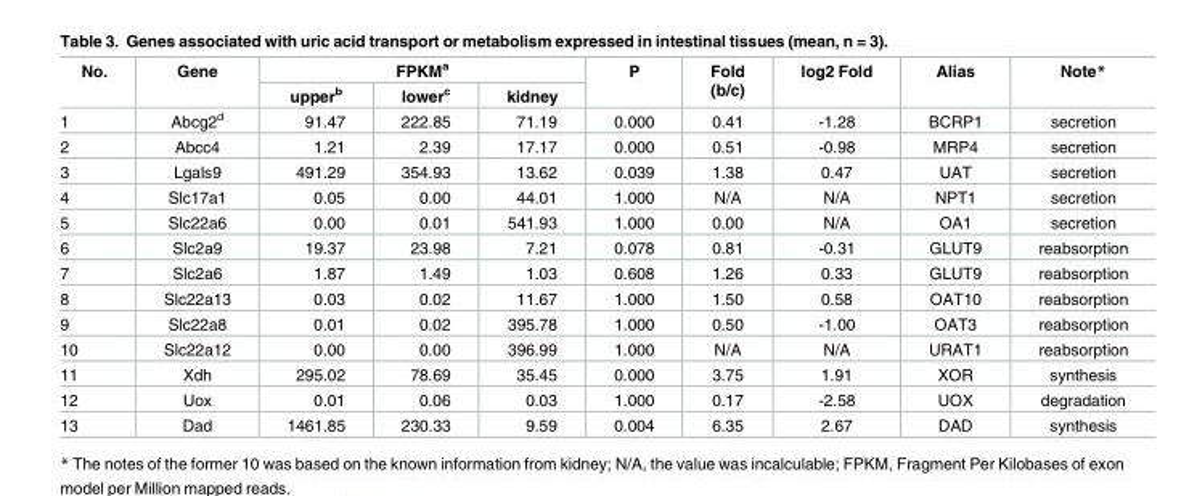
<table><thead><tr><td rowspan="2">No.</td><td rowspan="2">Gene</td><td colspan="3">FPKM<sup>a</sup></td><td rowspan="2">P</td><td rowspan="2">Fold (b/c)</td><td rowspan="2">log2 Fold</td><td rowspan="2">Alias</td><td rowspan="2">Note*</td></tr><tr><td>upper<sup>b</sup></td><td>lower<sup>c</sup></td><td>kidney</td></tr></thead><tbody><tr><td>1</td><td>Abcg2<sup>d</sup></td><td>91.47</td><td>222.85</td><td>71.19</td><td>0.000</td><td>0.41</td><td>-1.28</td><td>BCRP1</td><td>secretion</td></tr><tr><td>2</td><td>Abcc4</td><td>1.21</td><td>2.39</td><td>17.17</td><td>0.000</td><td>0.51</td><td>-0.98</td><td>MRP4</td><td>secretion</td></tr><tr><td>3</td><td>Lgals9</td><td>491.29</td><td>354.93</td><td>13.62</td><td>0.039</td><td>1.38</td><td>0.47</td><td>UAT</td><td>secretion</td></tr><tr><td>4</td><td>Slc17a1</td><td>0.05</td><td>0.00</td><td>44.01</td><td>1.000</td><td>N/A</td><td>N/A</td><td>NPT1</td><td>secretion</td></tr><tr><td>5</td><td>Slc22a6</td><td>0.00</td><td>0.01</td><td>541.93</td><td>1.000</td><td>0.00</td><td>N/A</td><td>OA1</td><td>secretion</td></tr><tr><td>6</td><td>Slc2a9</td><td>19.37</td><td>23.98</td><td>7.21</td><td>0.078</td><td>0.81</td><td>-0.31</td><td>GLUT9</td><td>reabsorption</td></tr><tr><td>7</td><td>Slc2a6</td><td>1.87</td><td>1.49</td><td>1.03</td><td>0.608</td><td>1.26</td><td>0.33</td><td>GLUT9</td><td>reabsorption</td></tr><tr><td>8</td><td>Slc22a13</td><td>0.03</td><td>0.02</td><td>11.67</td><td>1.000</td><td>1.50</td><td>0.58</td><td>OAT10</td><td>reabsorption</td></tr><tr><td>9</td><td>Slc22a8</td><td>0.01</td><td>0.02</td><td>395.78</td><td>1.000</td><td>0.50</td><td>-1.00</td><td>OAT3</td><td>reabsorption</td></tr><tr><td>10</td><td>Slc22a12</td><td>0.00</td><td>0.00</td><td>396.99</td><td>1.000</td><td>N/A</td><td>N/A</td><td>URAT1</td><td>reabsorption</td></tr><tr><td>11</td><td>Xdh</td><td>295.02</td><td>78.69</td><td>35.45</td><td>0.000</td><td>3.75</td><td>1.91</td><td>XOR</td><td>synthesis</td></tr><tr><td>12</td><td>Uox</td><td>0.01</td><td>0.06</td><td>0.03</td><td>1.000</td><td>0.17</td><td>-2.58</td><td>UOX</td><td>degradation</td></tr><tr><td>13</td><td>Dad</td><td>1461.85</td><td>230.33</td><td>9.59</td><td>0.004</td><td>6.35</td><td>2.67</td><td>DAD</td><td>synthesis</td></tr></tbody></table>